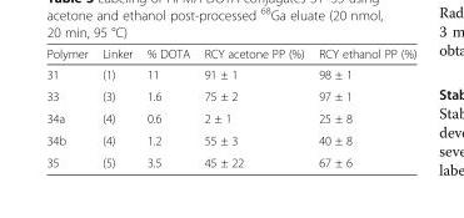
<table><thead><tr><td>Polymer</td><td>Linker</td><td>% DOTA</td><td>RCY acetone PP (%)</td><td>RCY ethanol PP (%)</td></tr></thead><tbody><tr><td>31</td><td>(1)</td><td>11</td><td>91 ± 1</td><td>98 ± 1</td></tr><tr><td>33</td><td>(3)</td><td>1.6</td><td>75 ± 2</td><td>97 ± 1</td></tr><tr><td>34a</td><td>(4)</td><td>0.6</td><td>2 ± 1</td><td>25 ± 8</td></tr><tr><td>34b</td><td>(4)</td><td>1.2</td><td>55 ± 3</td><td>40 ± 8</td></tr><tr><td>35</td><td>(5)</td><td>3.5</td><td>45 ± 22</td><td>67 ± 6</td></tr></tbody></table>